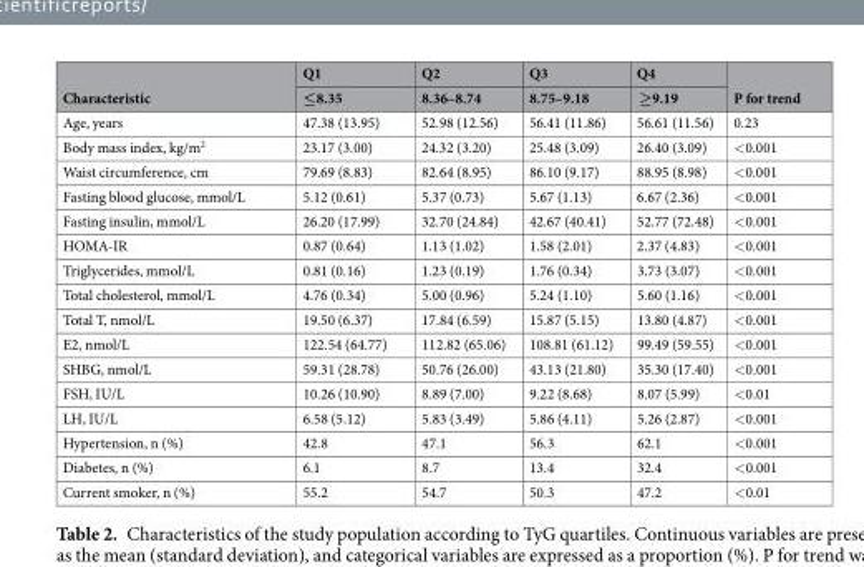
<table><thead><tr><td rowspan="2">Characteristic</td><td rowspan="2">Q1 ≤8.35</td><td rowspan="2">Q2 8.36–8.74</td><td rowspan="2">Q3 8.75–9.18</td><td rowspan="2">Q4 ≥9.19</td><td rowspan="2">P for trend</td></tr><tr></tr></thead><tbody><tr><td>Age, years</td><td>47.38 (13.95)</td><td>52.98 (12.56)</td><td>56.41 (11.86)</td><td>56.61 (11.56)</td><td>0.23</td></tr><tr><td>Body mass index, kg/m<sup>2</sup></td><td>23.17 (3.00)</td><td>24.32 (3.20)</td><td>25.48 (3.09)</td><td>26.40 (3.09)</td><td>&lt;0.001</td></tr><tr><td>Waist circumference, cm</td><td>79.69 (8.83)</td><td>82.64 (8.95)</td><td>86.10 (9.17)</td><td>88.95 (8.98)</td><td>&lt;0.001</td></tr><tr><td>Fasting blood glucose, mmol/L</td><td>5.12 (0.61)</td><td>5.37 (0.73)</td><td>5.67 (1.13)</td><td>6.67 (2.36)</td><td>&lt;0.001</td></tr><tr><td>Fasting insulin, mmol/L</td><td>26.20 (17.99)</td><td>32.70 (24.84)</td><td>42.67 (40.41)</td><td>52.77 (72.48)</td><td>&lt;0.001</td></tr><tr><td>HOMA-IR</td><td>0.87 (0.64)</td><td>1.13 (1.02)</td><td>1.58 (2.01)</td><td>2.37 (4.83)</td><td>&lt;0.001</td></tr><tr><td>Triglycerides, mmol/L</td><td>0.81 (0.16)</td><td>1.23 (0.19)</td><td>1.76 (0.34)</td><td>3.73 (3.07)</td><td>&lt;0.001</td></tr><tr><td>Total cholesterol, mmol/L</td><td>4.76 (0.34)</td><td>5.00 (0.96)</td><td>5.24 (1.10)</td><td>5.60 (1.16)</td><td>&lt;0.001</td></tr><tr><td>Total T, nmol/L</td><td>19.50 (6.37)</td><td>17.84 (6.59)</td><td>15.87 (5.15)</td><td>13.80 (4.87)</td><td>&lt;0.001</td></tr><tr><td>E2, nmol/L</td><td>122.54 (64.77)</td><td>112.82 (65.06)</td><td>108.81 (61.12)</td><td>99.49 (59.55)</td><td>&lt;0.001</td></tr><tr><td>SHBG, nmol/L</td><td>59.31 (28.78)</td><td>50.76 (26.00)</td><td>43.13 (21.80)</td><td>35.30 (17.40)</td><td>&lt;0.001</td></tr><tr><td>FSH, IU/L</td><td>10.26 (10.90)</td><td>8.89 (7.00)</td><td>9.22 (8.68)</td><td>8.07 (5.99)</td><td>&lt;0.01</td></tr><tr><td>LH, IU/L</td><td>6.58 (5.12)</td><td>5.83 (3.49)</td><td>5.86 (4.11)</td><td>5.26 (2.87)</td><td>&lt;0.001</td></tr><tr><td>Hypertension, n (%)</td><td>42.8</td><td>47.1</td><td>56.3</td><td>62.1</td><td>&lt;0.001</td></tr><tr><td>Diabetes, n (%)</td><td>6.1</td><td>8.7</td><td>13.4</td><td>32.4</td><td>&lt;0.001</td></tr><tr><td>Current smoker, n (%)</td><td>55.2</td><td>54.7</td><td>50.3</td><td>47.2</td><td>&lt;0.01</td></tr></tbody></table>